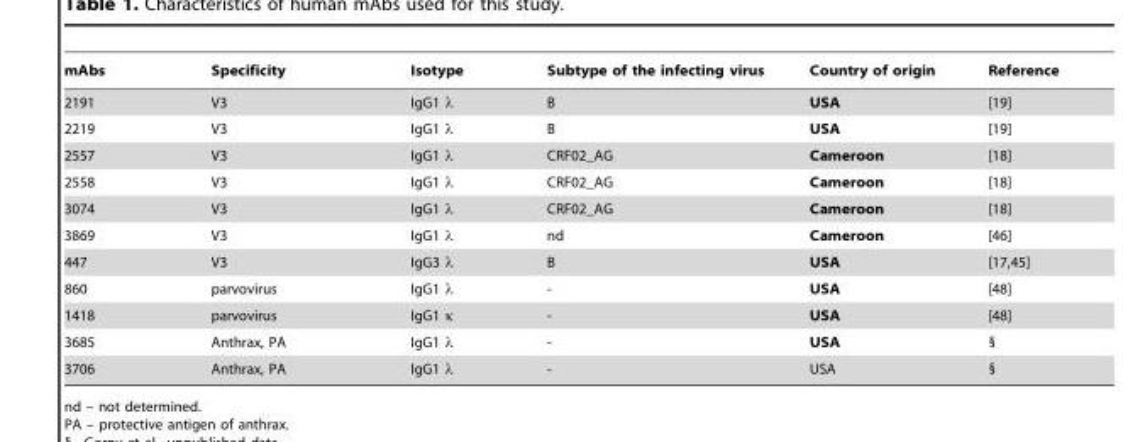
<table><thead><tr><td>mAbs</td><td>Specificity</td><td>Isotype</td><td>Subtype of the infecting virus</td><td>Country of origin</td><td>Reference</td></tr></thead><tbody><tr><td>2191</td><td>V3</td><td>IgG1 λ</td><td>B</td><td>USA</td><td>[19]</td></tr><tr><td>2219</td><td>V3</td><td>IgG1 λ</td><td>B</td><td>USA</td><td>[19]</td></tr><tr><td>2557</td><td>V3</td><td>IgG1 λ</td><td>CRF02_AG</td><td>Cameroon</td><td>[18]</td></tr><tr><td>2558</td><td>V3</td><td>IgG1 λ</td><td>CRF02_AG</td><td>Cameroon</td><td>[18]</td></tr><tr><td>3074</td><td>V3</td><td>IgG1 λ</td><td>CRF02_AG</td><td>Cameroon</td><td>[18]</td></tr><tr><td>3869</td><td>V3</td><td>IgG1 λ</td><td>nd</td><td>Cameroon</td><td>[46]</td></tr><tr><td>447</td><td>V3</td><td>IgG3 λ</td><td>B</td><td>USA</td><td>[17,45]</td></tr><tr><td>860</td><td>parvovirus</td><td>IgG1 λ</td><td>-</td><td>USA</td><td>[48]</td></tr><tr><td>1418</td><td>parvovirus</td><td>IgG1 κ</td><td>-</td><td>USA</td><td>[48]</td></tr><tr><td>3685</td><td>Anthrax, PA</td><td>IgG1 λ</td><td>-</td><td>USA</td><td>§</td></tr><tr><td>3706</td><td>Anthrax, PA</td><td>IgG1 λ</td><td>-</td><td>USA</td><td>§</td></tr></tbody></table>